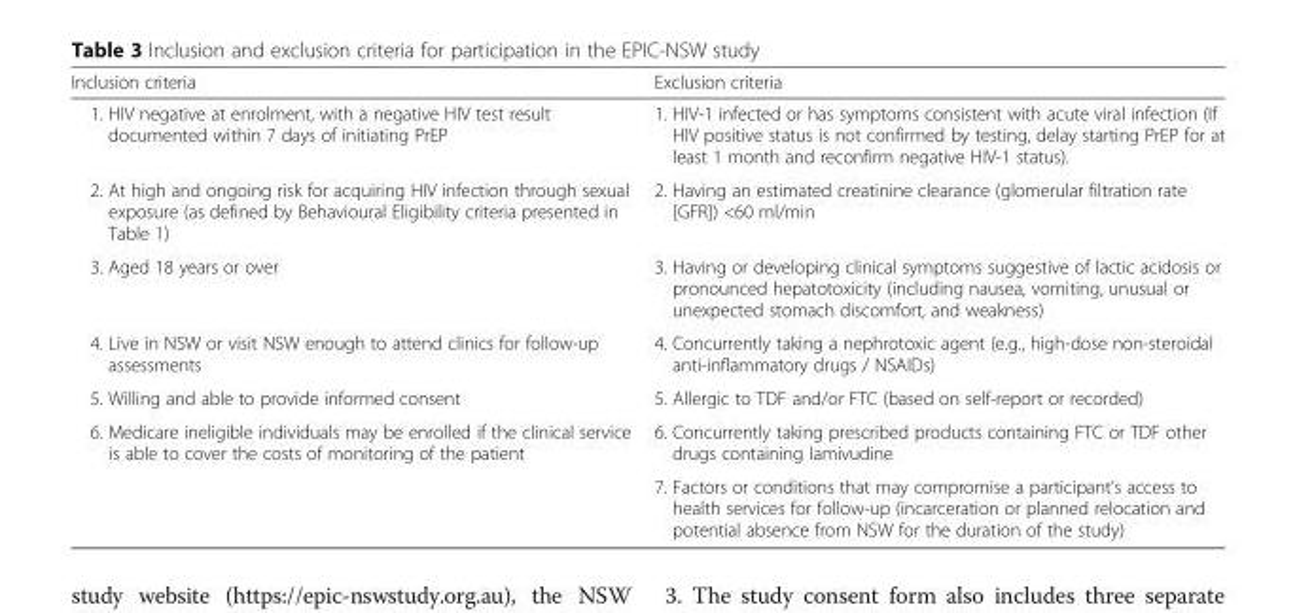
<table><thead><tr><td>Inclusion criteria</td><td>Exclusion criteria</td></tr></thead><tbody><tr><td>1. HIV negative at enrolment, with a negative HIV test result documented within 7 days of initiating PrEP</td><td>1. HIV-1 infected or has symptoms consistent with acute viral infection (If HIV positive status is not confirmed by testing, delay starting PrEP for at least 1 month and reconfirm negative HIV-1 status).</td></tr><tr><td>2. At high and ongoing risk for acquiring HIV infection through sexual exposure (as defined by Behavioural Eligibility criteria presented in Table 1)</td><td>2. Having an estimated creatinine clearance (glomerular filtration rate [GFR]) &lt;60 ml/min</td></tr><tr><td>3. Aged 18 years or over</td><td>3. Having or developing clinical symptoms suggestive of lactic acidosis or pronounced hepatotoxicity (including nausea, vomiting, unusual or unexpected stomach discomfort, and weakness)</td></tr><tr><td>4. Live in NSW or visit NSW enough to attend clinics for follow-up assessments</td><td>4. Concurrently taking a nephrotoxic agent (e.g., high-dose non-steroidal anti-inflammatory drugs / NSAIDs)</td></tr><tr><td>5. Willing and able to provide informed consent</td><td>5. Allergic to TDF and/or FTC (based on self-report or recorded)</td></tr><tr><td rowspan="2">6. Medicare ineligible individuals may be enrolled if the clinical service is able to cover the costs of monitoring of the patient</td><td>6. Concurrently taking prescribed products containing FTC or TDF other drugs containing lamivudine</td></tr><tr><td>7. Factors or conditions that may compromise a participant’s access to health services for follow-up (incarceration or planned relocation and potential absence from NSW for the duration of the study)</td></tr></tbody></table>